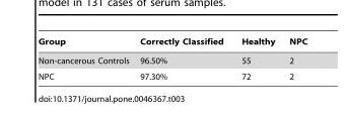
<table><thead><tr><td>Group</td><td>Correctly Classified</td><td>Healthy</td><td>NPC</td></tr></thead><tbody><tr><td>Non-cancerous Controls</td><td>96.50%</td><td>55</td><td>2</td></tr><tr><td>NPC</td><td>97.30%</td><td>72</td><td>2</td></tr></tbody></table>